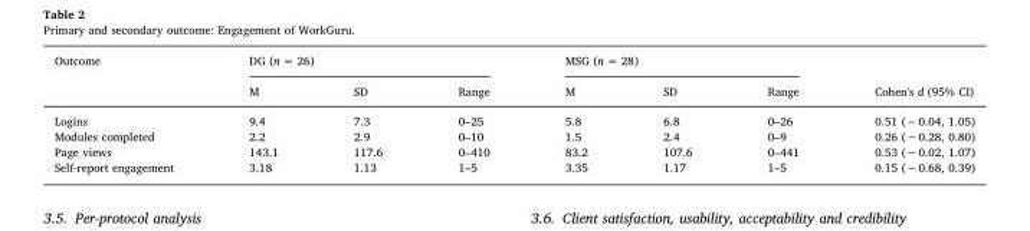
<table><thead><tr><td rowspan="2">Outcome</td><td colspan="3">DG (n = 26)</td><td colspan="3">MSG (n = 28)</td><td rowspan="2">Cohen&#x27;s d (95% CI)</td></tr><tr><td>M</td><td>SD</td><td>Range</td><td>M</td><td>SD</td><td>Range</td></tr></thead><tbody><tr><td>Logins</td><td>9.4</td><td>7.3</td><td>0–25</td><td>5.8</td><td>6.8</td><td>0–26</td><td>0.51 (−0.04, 1.05)</td></tr><tr><td>Modules completed</td><td>2.2</td><td>2.9</td><td>0–10</td><td>1.5</td><td>2.4</td><td>0–9</td><td>0.26 (−0.28, 0.80)</td></tr><tr><td>Page views</td><td>143.1</td><td>117.6</td><td>0–410</td><td>83.2</td><td>107.6</td><td>0–441</td><td>0.53 (−0.02, 1.07)</td></tr><tr><td>Self-report engagement</td><td>3.18</td><td>1.13</td><td>1–5</td><td>3.35</td><td>1.17</td><td>1–5</td><td>0.15 (−0.68, 0.39)</td></tr></tbody></table>